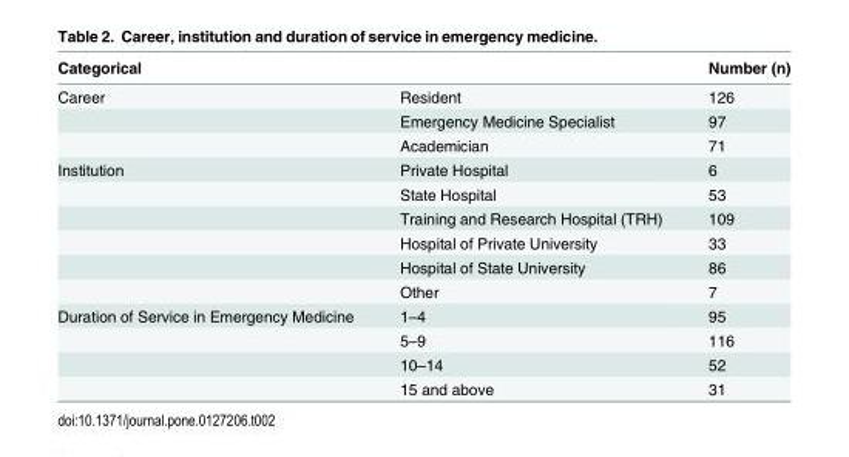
<table><thead><tr><td>Categorical</td><td></td><td>Number (n)</td></tr></thead><tbody><tr><td rowspan="3">Career</td><td>Resident</td><td>126</td></tr><tr><td>Emergency Medicine Specialist</td><td>97</td></tr><tr><td>Academician</td><td>71</td></tr><tr><td rowspan="6">Institution</td><td>Private Hospital</td><td>6</td></tr><tr><td>State Hospital</td><td>53</td></tr><tr><td>Training and Research Hospital (TRH)</td><td>109</td></tr><tr><td>Hospital of Private University</td><td>33</td></tr><tr><td>Hospital of State University</td><td>86</td></tr><tr><td>Other</td><td>7</td></tr><tr><td rowspan="4">Duration of Service in Emergency Medicine</td><td>1–4</td><td>95</td></tr><tr><td>5–9</td><td>116</td></tr><tr><td>10–14</td><td>52</td></tr><tr><td>15 and above</td><td>31</td></tr></tbody></table>